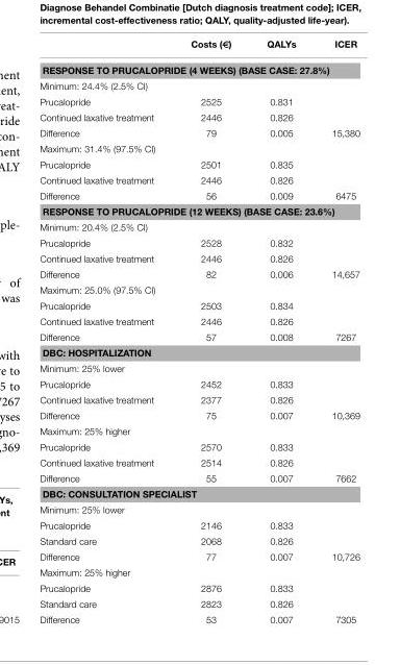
<table><thead><tr><td></td><td>Costs (€)</td><td>QALYs</td><td>ICER</td></tr></thead><tbody><tr><td colspan="4">RESPONSE TO PRUCALOPRIDE (4 WEEKS) (BASE CASE: 27.8%)</td></tr><tr><td colspan="4">Minimum: 24.4% (2.5% CI)</td></tr><tr><td>Prucalopride</td><td>2525</td><td>0.831</td><td></td></tr><tr><td>Continued laxative treatment</td><td>2446</td><td>0.826</td><td></td></tr><tr><td>Difference</td><td>79</td><td>0.005</td><td>15,380</td></tr><tr><td colspan="4">Maximum: 31.4% (97.5% CI)</td></tr><tr><td>Prucalopride</td><td>2501</td><td>0.835</td><td></td></tr><tr><td>Continued laxative treatment</td><td>2446</td><td>0.826</td><td></td></tr><tr><td>Difference</td><td>56</td><td>0.009</td><td>6475</td></tr><tr><td colspan="4">RESPONSE TO PRUCALOPRIDE (12 WEEKS) (BASE CASE: 23.6%)</td></tr><tr><td colspan="4">Minimum: 20.4% (2.5% CI)</td></tr><tr><td>Prucalopride</td><td>2528</td><td>0.832</td><td></td></tr><tr><td>Continued laxative treatment</td><td>2446</td><td>0.826</td><td></td></tr><tr><td>Difference</td><td>82</td><td>0.006</td><td>14,657</td></tr><tr><td colspan="4">Maximum: 25.0% (97.5% CI)</td></tr><tr><td>Prucalopride</td><td>2503</td><td>0.834</td><td></td></tr><tr><td>Continued laxative treatment</td><td>2446</td><td>0.826</td><td></td></tr><tr><td>Difference</td><td>57</td><td>0.008</td><td>7267</td></tr><tr><td colspan="4">DBC: HOSPITALIZATION</td></tr><tr><td colspan="4">Minimum: 25% lower</td></tr><tr><td>Prucalopride</td><td>2452</td><td>0.833</td><td></td></tr><tr><td>Continued laxative treatment</td><td>2377</td><td>0.826</td><td></td></tr><tr><td>Difference</td><td>75</td><td>0.007</td><td>10,369</td></tr><tr><td colspan="4">Maximum: 25% higher</td></tr><tr><td>Prucalopride</td><td>2570</td><td>0.833</td><td></td></tr><tr><td>Continued laxative treatment</td><td>2514</td><td>0.826</td><td></td></tr><tr><td>Difference</td><td>55</td><td>0.007</td><td>7662</td></tr><tr><td colspan="4">DBC: CONSULTATION SPECIALIST</td></tr><tr><td colspan="4">Minimum: 25% lower</td></tr><tr><td>Prucalopride</td><td>2146</td><td>0.833</td><td></td></tr><tr><td>Standard care</td><td>2068</td><td>0.826</td><td></td></tr><tr><td>Difference</td><td>77</td><td>0.007</td><td>10,726</td></tr><tr><td colspan="4">Maximum: 25% higher</td></tr><tr><td>Prucalopride</td><td>2876</td><td>0.833</td><td></td></tr><tr><td>Standard care</td><td>2823</td><td>0.826</td><td></td></tr><tr><td>Difference</td><td>53</td><td>0.007</td><td>7305</td></tr></tbody></table>